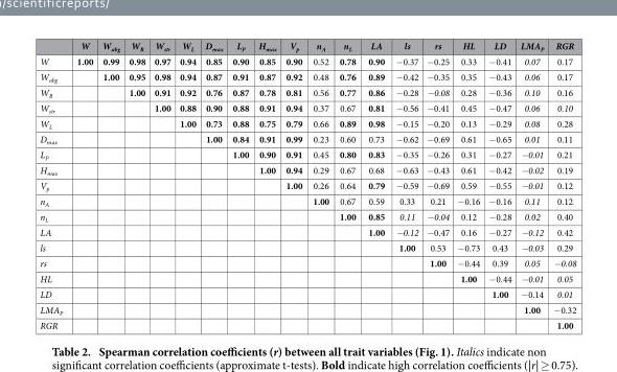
<table><thead><tr><td></td><td>W</td><td>W<sub>abg</sub></td><td>W<sub>R</sub></td><td>W<sub>str</sub></td><td>W<sub>L</sub></td><td>D<sub>max</sub></td><td>L<sub>P</sub></td><td>H<sub>max</sub></td><td>V<sub>p</sub></td><td>n<sub>A</sub></td><td>n<sub>L</sub></td><td>LA</td><td>ls</td><td>rs</td><td>HL</td><td>LD</td><td>LMA<sub>P</sub></td><td>RGR</td></tr></thead><tbody><tr><td>W</td><td>1.00</td><td>0.99</td><td>0.98</td><td>0.97</td><td>0.94</td><td>0.85</td><td>0.90</td><td>0.85</td><td>0.90</td><td>0.52</td><td>0.78</td><td>0.90</td><td>− 0.37</td><td>− 0.25</td><td>0.33</td><td>− 0.41</td><td>0.07</td><td>0.17</td></tr><tr><td>W<sub>abg</sub></td><td></td><td>1.00</td><td>0.95</td><td>0.98</td><td>0.94</td><td>0.87</td><td>0.91</td><td>0.87</td><td>0.92</td><td>0.48</td><td>0.76</td><td>0.89</td><td>− 0.42</td><td>− 0.35</td><td>0.35</td><td>− 0.43</td><td>0.06</td><td>0.17</td></tr><tr><td>W<sub>R</sub></td><td></td><td></td><td>1.00</td><td>0.91</td><td>0.92</td><td>0.76</td><td>0.87</td><td>0.78</td><td>0.81</td><td>0.56</td><td>0.77</td><td>0.86</td><td>− 0.28</td><td>−0.08</td><td>0.28</td><td>− 0.36</td><td>0.10</td><td>0.16</td></tr><tr><td>W<sub>str</sub></td><td></td><td></td><td></td><td>1.00</td><td>0.88</td><td>0.90</td><td>0.88</td><td>0.91</td><td>0.94</td><td>0.37</td><td>0.67</td><td>0.81</td><td>− 0.56</td><td>− 0.41</td><td>0.45</td><td>− 0.47</td><td>0.06</td><td>0.10</td></tr><tr><td>W<sub>L</sub></td><td></td><td></td><td></td><td></td><td>1.00</td><td>0.73</td><td>0.88</td><td>0.75</td><td>0.79</td><td>0.66</td><td>0.89</td><td>0.98</td><td>− 0.15</td><td>− 0.20</td><td>0.13</td><td>− 0.29</td><td>0.08</td><td>0.28</td></tr><tr><td>D<sub>max</sub></td><td></td><td></td><td></td><td></td><td></td><td>1.00</td><td>0.84</td><td>0.91</td><td>0.99</td><td>0.23</td><td>0.60</td><td>0.73</td><td>− 0.62</td><td>− 0.69</td><td>0.61</td><td>− 0.65</td><td>0.01</td><td>0.11</td></tr><tr><td>L<sub>P</sub></td><td></td><td></td><td></td><td></td><td></td><td></td><td>1.00</td><td>0.90</td><td>0.91</td><td>0.45</td><td>0.80</td><td>0.83</td><td>− 0.35</td><td>− 0.26</td><td>0.31</td><td>− 0.27</td><td>−0.01</td><td>0.21</td></tr><tr><td>H<sub>max</sub></td><td></td><td></td><td></td><td></td><td></td><td></td><td></td><td>1.00</td><td>0.94</td><td>0.29</td><td>0.67</td><td>0.68</td><td>− 0.63</td><td>− 0.43</td><td>0.61</td><td>− 0.42</td><td>−0.02</td><td>0.19</td></tr><tr><td>V<sub>p</sub></td><td></td><td></td><td></td><td></td><td></td><td></td><td></td><td></td><td>1.00</td><td>0.26</td><td>0.64</td><td>0.79</td><td>− 0.59</td><td>− 0.69</td><td>0.59</td><td>− 0.55</td><td>−0.01</td><td>0.12</td></tr><tr><td>n<sub>A</sub></td><td></td><td></td><td></td><td></td><td></td><td></td><td></td><td></td><td></td><td>1.00</td><td>0.67</td><td>0.59</td><td>0.33</td><td>0.21</td><td>− 0.16</td><td>− 0.16</td><td>0.11</td><td>0.12</td></tr><tr><td>n<sub>L</sub></td><td></td><td></td><td></td><td></td><td></td><td></td><td></td><td></td><td></td><td></td><td>1.00</td><td>0.85</td><td>0.11</td><td>−0.04</td><td>0.12</td><td>− 0.28</td><td>0.02</td><td>0.40</td></tr><tr><td>LA</td><td></td><td></td><td></td><td></td><td></td><td></td><td></td><td></td><td></td><td></td><td></td><td>1.00</td><td>−0.12</td><td>− 0.47</td><td>0.16</td><td>− 0.27</td><td>−0.12</td><td>0.42</td></tr><tr><td>ls</td><td></td><td></td><td></td><td></td><td></td><td></td><td></td><td></td><td></td><td></td><td></td><td></td><td>1.00</td><td>0.53</td><td>− 0.73</td><td>0.43</td><td>−0.03</td><td>0.29</td></tr><tr><td>rs</td><td></td><td></td><td></td><td></td><td></td><td></td><td></td><td></td><td></td><td></td><td></td><td></td><td></td><td>1.00</td><td>− 0.44</td><td>0.39</td><td>0.05</td><td>−0.08</td></tr><tr><td>HL</td><td></td><td></td><td></td><td></td><td></td><td></td><td></td><td></td><td></td><td></td><td></td><td></td><td></td><td></td><td>1.00</td><td>− 0.44</td><td>−0.01</td><td>0.05</td></tr><tr><td>LD</td><td></td><td></td><td></td><td></td><td></td><td></td><td></td><td></td><td></td><td></td><td></td><td></td><td></td><td></td><td></td><td>1.00</td><td>− 0.14</td><td>0.01</td></tr><tr><td>LMA<sub>P</sub></td><td></td><td></td><td></td><td></td><td></td><td></td><td></td><td></td><td></td><td></td><td></td><td></td><td></td><td></td><td></td><td></td><td>1.00</td><td>− 0.32</td></tr><tr><td>RGR</td><td></td><td></td><td></td><td></td><td></td><td></td><td></td><td></td><td></td><td></td><td></td><td></td><td></td><td></td><td></td><td></td><td></td><td>1.00</td></tr></tbody></table>